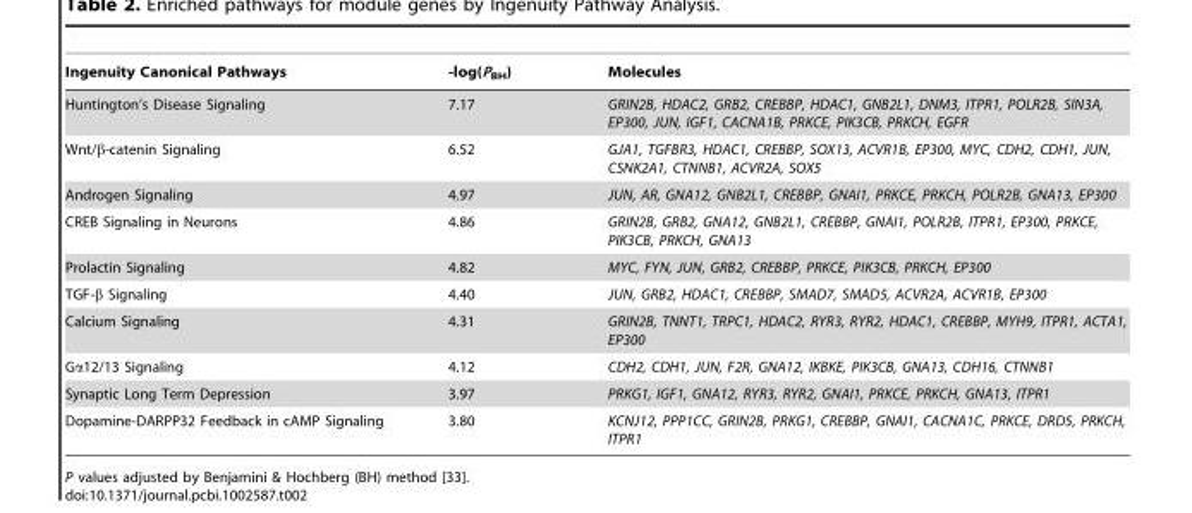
<table><thead><tr><td>Ingenuity Canonical Pathways</td><td>-log(P<sub>BH</sub>)</td><td>Molecules</td></tr></thead><tbody><tr><td>Huntington’s Disease Signaling</td><td>7.17</td><td>GRIN2B, HDAC2, GRB2, CREBBP, HDAC1, GNB2L1, DNM3, ITPR1, POLR2B, SIN3A, EP300, JUN, IGF1, CACNA1B, PRKCE, PIK3CB, PRKCH, EGFR</td></tr><tr><td>Wnt/β-catenin Signaling</td><td>6.52</td><td>GJA1, TGFBR3, HDAC1, CREBBP, SOX13, ACVR1B, EP300, MYC, CDH2, CDH1, JUN, CSNK2A1, CTNNB1, ACVR2A, SOX5</td></tr><tr><td>Androgen Signaling</td><td>4.97</td><td>JUN, AR, GNA12, GNB2L1, CREBBP, GNAI1, PRKCE, PRKCH, POLR2B, GNA13, EP300</td></tr><tr><td>CREB Signaling in Neurons</td><td>4.86</td><td>GRIN2B, GRB2, GNA12, GNB2L1, CREBBP, GNAI1, POLR2B, ITPR1, EP300, PRKCE, PIK3CB, PRKCH, GNA13</td></tr><tr><td>Prolactin Signaling</td><td>4.82</td><td>MYC, FYN, JUN, GRB2, CREBBP, PRKCE, PIK3CB, PRKCH, EP300</td></tr><tr><td>TGF-β Signaling</td><td>4.40</td><td>JUN, GRB2, HDAC1, CREBBP, SMAD7, SMAD5, ACVR2A, ACVR1B, EP300</td></tr><tr><td>Calcium Signaling</td><td>4.31</td><td>GRIN2B, TNNT1, TRPC1, HDAC2, RYR3, RYR2, HDAC1, CREBBP, MYH9, ITPR1, ACTA1, EP300</td></tr><tr><td>Gα12/13 Signaling</td><td>4.12</td><td>CDH2, CDH1, JUN, F2R, GNA12, IKBKE, PIK3CB, GNA13, CDH16, CTNNB1</td></tr><tr><td>Synaptic Long Term Depression</td><td>3.97</td><td>PRKG1, IGF1, GNA12, RYR3, RYR2, GNAI1, PRKCE, PRKCH, GNA13, ITPR1</td></tr><tr><td>Dopamine-DARPP32 Feedback in cAMP Signaling</td><td>3.80</td><td>KCNJ12, PPP1CC, GRIN2B, PRKG1, CREBBP, GNAI1, CACNA1C, PRKCE, DRD5, PRKCH, ITPR1</td></tr></tbody></table>